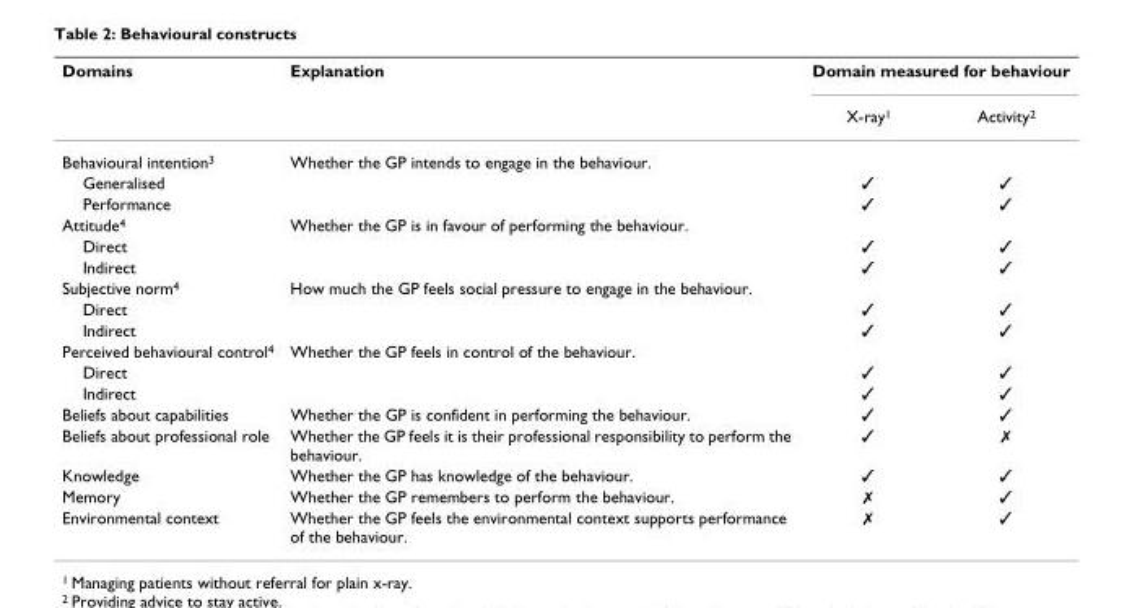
<table><thead><tr><td rowspan="2">Domains</td><td rowspan="2">Explanation</td><td colspan="2">Domain measured for behaviour</td></tr><tr><td>X-ray<sup>1</sup></td><td>Activity<sup>2</sup></td></tr></thead><tbody><tr><td>Behavioural intention<sup>3</sup></td><td>Whether the GP intends to engage in the behaviour.</td><td></td><td></td></tr><tr><td>Generalised</td><td></td><td>✓</td><td>✓</td></tr><tr><td>Performance</td><td></td><td>✓</td><td>✓</td></tr><tr><td>Attitude<sup>4</sup></td><td>Whether the GP is in favour of performing the behaviour.</td><td></td><td></td></tr><tr><td>Direct</td><td></td><td>✓</td><td>✓</td></tr><tr><td>Indirect</td><td></td><td>✓</td><td>✓</td></tr><tr><td>Subjective norm<sup>4</sup></td><td>How much the GP feels social pressure to engage in the behaviour.</td><td></td><td></td></tr><tr><td>Direct</td><td></td><td>✓</td><td>✓</td></tr><tr><td>Indirect</td><td></td><td>✓</td><td>✓</td></tr><tr><td>Perceived behavioural control<sup>4</sup></td><td>Whether the GP feels in control of the behaviour.</td><td></td><td></td></tr><tr><td>Direct</td><td></td><td>✓</td><td>✓</td></tr><tr><td>Indirect</td><td></td><td>✓</td><td>✓</td></tr><tr><td>Beliefs about capabilities</td><td>Whether the GP is confident in performing the behaviour.</td><td>✓</td><td>✓</td></tr><tr><td>Beliefs about professional role</td><td>Whether the GP feels it is their professional responsibility to perform the behaviour.</td><td>✓</td><td>✗</td></tr><tr><td>Knowledge</td><td>Whether the GP has knowledge of the behaviour.</td><td>✓</td><td>✓</td></tr><tr><td>Memory</td><td>Whether the GP remembers to perform the behaviour.</td><td>✗</td><td>✓</td></tr><tr><td>Environmental context</td><td>Whether the GP feels the environmental context supports performance of the behaviour.</td><td>✗</td><td>✓</td></tr></tbody></table>